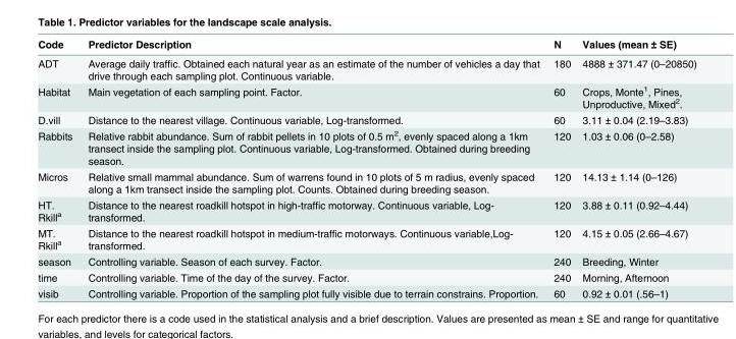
<table><thead><tr><td>Code</td><td>Predictor Description</td><td>N</td><td>Values (mean ± SE)</td></tr></thead><tbody><tr><td>ADT</td><td>Average daily traffic. Obtained each natural year as an estimate of the number of vehicles a day that drive through each sampling plot. Continuous variable.</td><td>180</td><td>4888 ± 371.47 (0–20850)</td></tr><tr><td>Habitat</td><td>Main vegetation of each sampling point. Factor.</td><td>60</td><td>Crops, Monte<sup>1</sup>, Pines, Unproductive, Mixed<sup>2</sup>.</td></tr><tr><td>D.vill</td><td>Distance to the nearest village. Continuous variable, Log-transformed.</td><td>60</td><td>3.11 ± 0.04 (2.19–3.83)</td></tr><tr><td>Rabbits</td><td>Relative rabbit abundance. Sum of rabbit pellets in 10 plots of 0.5 m<sup>2</sup>, evenly spaced along a 1km transect inside the sampling plot. Continuous variable, Log-transformed. Obtained during breeding season.</td><td>120</td><td>1.03 ± 0.06 (0–2.58)</td></tr><tr><td>Micros</td><td>Relative small mammal abundance. Sum of warrens found in 10 plots of 5 m radius, evenly spaced along a 1km transect inside the sampling plot. Counts. Obtained during breeding season.</td><td>120</td><td>14.13 ± 1.14 (0–126)</td></tr><tr><td>HT. Rkill<sup>a</sup></td><td>Distance to the nearest roadkill hotspot in high-traffic motorway. Continuous variable, Log- transformed.</td><td>120</td><td>3.88 ± 0.11 (0.92–4.44)</td></tr><tr><td>MT. Rkill<sup>a</sup></td><td>Distance to the nearest roadkill hotspot in medium-traffic motorways. Continuous variable,Log- transformed.</td><td>120</td><td>4.15 ± 0.05 (2.66–4.67)</td></tr><tr><td>season</td><td>Controlling variable. Season of each survey. Factor.</td><td>240</td><td>Breeding, Winter</td></tr><tr><td>time</td><td>Controlling variable. Time of the day of the survey. Factor.</td><td>240</td><td>Morning, Afternoon</td></tr><tr><td>visib</td><td>Controlling variable. Proportion of the sampling plot fully visible due to terrain constrains. Proportion.</td><td>60</td><td>0.92 ± 0.01 (.56–1)</td></tr></tbody></table>